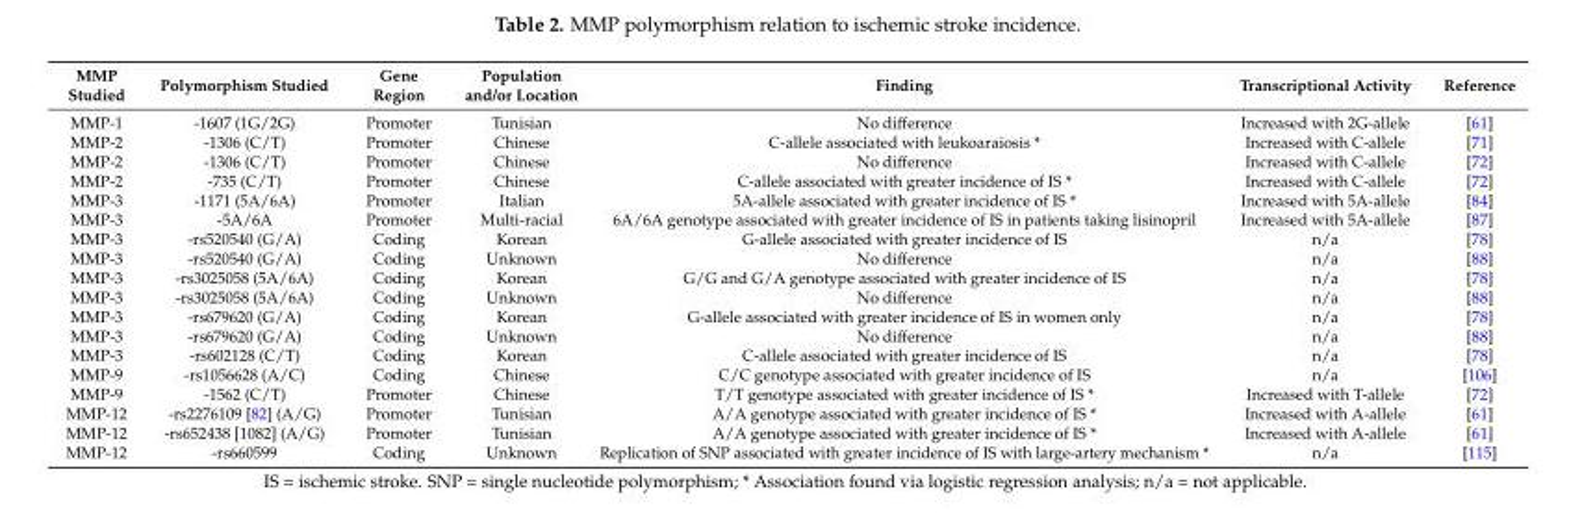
<table><thead><tr><td>MMP Studied</td><td>Polymorphism Studied</td><td>Gene Region</td><td>Population and/or Location</td><td>Finding</td><td>Transcriptional Activity</td><td>Reference</td></tr></thead><tbody><tr><td>MMP-1</td><td>-1607 (1G/2G)</td><td>Promoter</td><td>Tunisian</td><td>No difference</td><td>Increased with 2G-allele</td><td>[61]</td></tr><tr><td>MMP-2</td><td>-1306 (C/T)</td><td>Promoter</td><td>Chinese</td><td>C-allele associated with leukoaraiosis *</td><td>Increased with C-allele</td><td>[71]</td></tr><tr><td>MMP-2</td><td>-1306 (C/T)</td><td>Promoter</td><td>Chinese</td><td>No difference</td><td>Increased with C-allele</td><td>[72]</td></tr><tr><td>MMP-2</td><td>-735 (C/T)</td><td>Promoter</td><td>Chinese</td><td>C-allele associated with greater incidence of IS *</td><td>Increased with C-allele</td><td>[72]</td></tr><tr><td>MMP-3</td><td>-1171 (5A/6A)</td><td>Promoter</td><td>Italian</td><td>5A-allele associated with greater incidence of IS *</td><td>Increased with 5A-allele</td><td>[84]</td></tr><tr><td>MMP-3</td><td>-5A/6A</td><td>Promoter</td><td>Multi-racial</td><td>6A/6A genotype associated with greater incidence of IS in patients taking lisinopril</td><td>Increased with 5A-allele</td><td>[87]</td></tr><tr><td>MMP-3</td><td>-rs520540 (G/A)</td><td>Coding</td><td>Korean</td><td>G-allele associated with greater incidence of IS</td><td>n/a</td><td>[78]</td></tr><tr><td>MMP-3</td><td>-rs520540 (G/A)</td><td>Coding</td><td>Unknown</td><td>No difference</td><td>n/a</td><td>[88]</td></tr><tr><td>MMP-3</td><td>-rs3025058 (5A/6A)</td><td>Coding</td><td>Korean</td><td>G/G and G/A genotype associated with greater incidence of IS</td><td>n/a</td><td>[78]</td></tr><tr><td>MMP-3</td><td>-rs3025058 (5A/6A)</td><td>Coding</td><td>Unknown</td><td>No difference</td><td>n/a</td><td>[88]</td></tr><tr><td>MMP-3</td><td>-rs679620 (G/A)</td><td>Coding</td><td>Korean</td><td>G-allele associated with greater incidence of IS in women only</td><td>n/a</td><td>[78]</td></tr><tr><td>MMP-3</td><td>-rs679620 (G/A)</td><td>Coding</td><td>Unknown</td><td>No difference</td><td>n/a</td><td>[88]</td></tr><tr><td>MMP-3</td><td>-rs602128 (C/T)</td><td>Coding</td><td>Korean</td><td>C-allele associated with greater incidence of IS</td><td>n/a</td><td>[78]</td></tr><tr><td>MMP-9</td><td>-rs1056628 (A/C)</td><td>Coding</td><td>Chinese</td><td>C/C genotype associated with greater incidence of IS</td><td>n/a</td><td>[106]</td></tr><tr><td>MMP-9</td><td>-1562 (C/T)</td><td>Promoter</td><td>Chinese</td><td>T/T genotype associated with greater incidence of IS *</td><td>Increased with T-allele</td><td>[72]</td></tr><tr><td>MMP-12</td><td>-rs2276109 [82] (A/G)</td><td>Promoter</td><td>Tunisian</td><td>A/A genotype associated with greater incidence of IS *</td><td>Increased with A-allele</td><td>[61]</td></tr><tr><td>MMP-12</td><td>-rs652438 [1082] (A/G)</td><td>Promoter</td><td>Tunisian</td><td>A/A genotype associated with greater incidence of IS *</td><td>Increased with A-allele</td><td>[61]</td></tr><tr><td>MMP-12</td><td>-rs660599</td><td>Coding</td><td>Unknown</td><td>Replication of SNP associated with greater incidence of IS with large-artery mechanism *</td><td>n/a</td><td>[115]</td></tr></tbody></table>